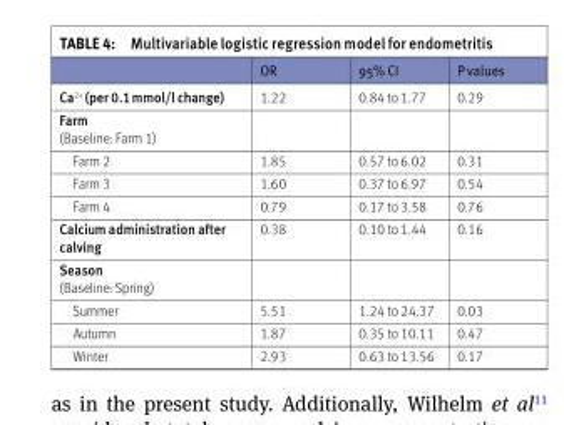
<table><thead><tr><td></td><td>OR</td><td>95% CI</td><td>P values</td></tr></thead><tbody><tr><td>Ca<sup>2+</sup> (per 0.1 mmol/l change)</td><td>1.22</td><td>0.84 to 1.77</td><td>0.29</td></tr><tr><td colspan="4">Farm (Baseline: Farm 1)</td></tr><tr><td>Farm 2</td><td>1.85</td><td>0.57 to 6.02</td><td>0.31</td></tr><tr><td>Farm 3</td><td>1.60</td><td>0.37 to 6.97</td><td>0.54</td></tr><tr><td>Farm 4</td><td>0.79</td><td>0.17 to 3.58</td><td>0.76</td></tr><tr><td>Calcium administration after calving</td><td>0.38</td><td>0.10 to 1.44</td><td>0.16</td></tr><tr><td colspan="4">Season (Baseline: Spring)</td></tr><tr><td>Summer</td><td>5.51</td><td>1.24 to 24.37</td><td>0.03</td></tr><tr><td>Autumn</td><td>1.87</td><td>0.35 to 10.11</td><td>0.47</td></tr><tr><td>Winter</td><td>2.93</td><td>0.63 to 13.56</td><td>0.17</td></tr></tbody></table>